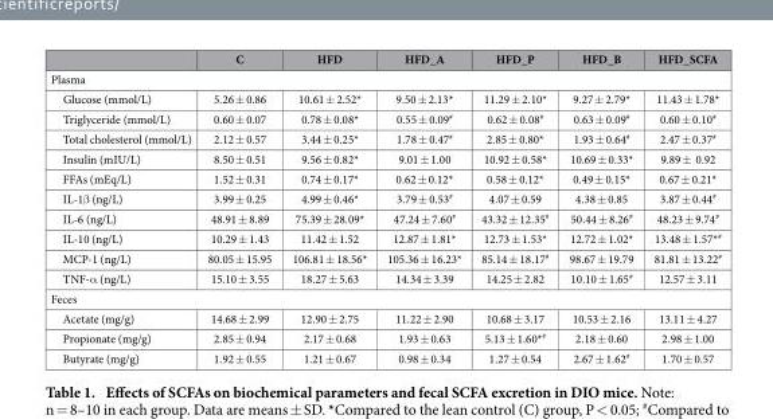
<table><thead><tr><td></td><td>C</td><td>HFD</td><td>HFD_A</td><td>HFD_P</td><td>HFD_B</td><td>HFD_SCFA</td></tr></thead><tbody><tr><td colspan="7">Plasma</td></tr><tr><td>Glucose (mmol/L)</td><td>5.26 ± 0.86</td><td>10.61 ± 2.52*</td><td>9.50 ± 2.13*</td><td>11.29 ± 2.10*</td><td>9.27 ± 2.79*</td><td>11.43 ± 1.78*</td></tr><tr><td>Triglyceride (mmol/L)</td><td>0.60 ± 0.07</td><td>0.78 ± 0.08*</td><td>0.55 ± 0.09<sup>#</sup></td><td>0.62 ± 0.08<sup>#</sup></td><td>0.63 ± 0.09<sup>#</sup></td><td>0.60 ± 0.10<sup>#</sup></td></tr><tr><td>Total cholesterol (mmol/L)</td><td>2.12 ± 0.57</td><td>3.44 ± 0.25*</td><td>1.78 ± 0.47<sup>#</sup></td><td>2.85 ± 0.80*</td><td>1.93 ± 0.64<sup>#</sup></td><td>2.47 ± 0.37<sup>#</sup></td></tr><tr><td>Insulin (mIU/L)</td><td>8.50 ± 0.51</td><td>9.56 ± 0.82*</td><td>9.01 ± 1.00</td><td>10.92 ± 0.58*</td><td>10.69 ± 0.33*</td><td>9.89 ± 0.92</td></tr><tr><td>FFAs (mEq/L)</td><td>1.52 ± 0.31</td><td>0.74 ± 0.17*</td><td>0.62 ± 0.12*</td><td>0.58 ± 0.12*</td><td>0.49 ± 0.15*</td><td>0.67 ± 0.21*</td></tr><tr><td>IL-1β (ng/L)</td><td>3.99 ± 0.25</td><td>4.99 ± 0.46*</td><td>3.79 ± 0.53<sup>#</sup></td><td>4.07 ± 0.59</td><td>4.38 ± 0.85</td><td>3.87 ± 0.44<sup>#</sup></td></tr><tr><td>IL-6 (ng/L)</td><td>48.91 ± 8.89</td><td>75.39 ± 28.09*</td><td>47.24 ± 7.60<sup>#</sup></td><td>43.32 ± 12.35<sup>#</sup></td><td>50.44 ± 8.26<sup>#</sup></td><td>48.23 ± 9.74<sup>#</sup></td></tr><tr><td>IL-10 (ng/L)</td><td>10.29 ± 1.43</td><td>11.42 ± 1.52</td><td>12.87 ± 1.81*</td><td>12.73 ± 1.53*</td><td>12.72 ± 1.02*</td><td>13.48 ± 1.57*<sup>#</sup></td></tr><tr><td>MCP-1 (ng/L)</td><td>80.05 ± 15.95</td><td>106.81 ± 18.56*</td><td>105.36 ± 16.23*</td><td>85.14 ± 18.17<sup>#</sup></td><td>98.67 ± 19.79</td><td>81.81 ± 13.22<sup>#</sup></td></tr><tr><td>TNF-α (ng/L)</td><td>15.10 ± 3.55</td><td>18.27 ± 5.63</td><td>14.34 ± 3.39</td><td>14.25 ± 2.82</td><td>10.10 ± 1.65<sup>#</sup></td><td>12.57 ± 3.11</td></tr><tr><td colspan="7">Feces</td></tr><tr><td>Acetate (mg/g)</td><td>14.68 ± 2.99</td><td>12.90 ± 2.75</td><td>11.22 ± 2.90</td><td>10.68 ± 3.17</td><td>10.53 ± 2.16</td><td>13.11 ± 4.27</td></tr><tr><td>Propionate (mg/g)</td><td>2.85 ± 0.94</td><td>2.17 ± 0.68</td><td>1.93 ± 0.63</td><td>5.13 ± 1.60*<sup>#</sup></td><td>2.18 ± 0.60</td><td>2.98 ± 1.00</td></tr><tr><td>Butyrate (mg/g)</td><td>1.92 ± 0.55</td><td>1.21 ± 0.67</td><td>0.98 ± 0.34</td><td>1.27 ± 0.54</td><td>2.67 ± 1.62<sup>#</sup></td><td>1.70 ± 0.57</td></tr></tbody></table>